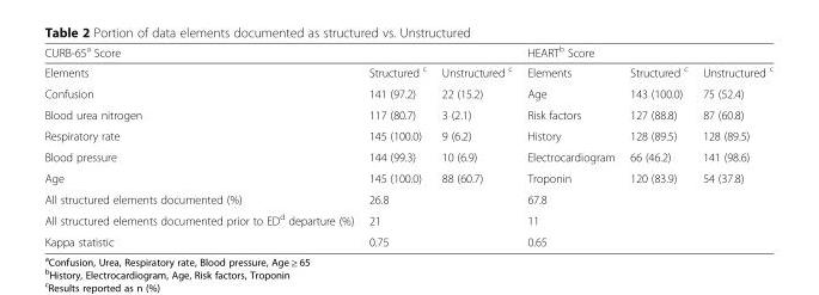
<table><thead><tr><td colspan="3">CURB-65<sup>a</sup> Score</td><td colspan="3">HEART<sup>b</sup> Score</td></tr><tr><td>Elements</td><td>Structured <sup>c</sup></td><td>Unstructured <sup>c</sup></td><td>Elements</td><td>Structured <sup>c</sup></td><td>Unstructured <sup>c</sup></td></tr></thead><tbody><tr><td>Confusion</td><td>141 (97.2)</td><td>22 (15.2)</td><td>Age</td><td>143 (100.0)</td><td>75 (52.4)</td></tr><tr><td>Blood urea nitrogen</td><td>117 (80.7)</td><td>3 (2.1)</td><td>Risk factors</td><td>127 (88.8)</td><td>87 (60.8)</td></tr><tr><td>Respiratory rate</td><td>145 (100.0)</td><td>9 (6.2)</td><td>History</td><td>128 (89.5)</td><td>128 (89.5)</td></tr><tr><td>Blood pressure</td><td>144 (99.3)</td><td>10 (6.9)</td><td>Electrocardiogram</td><td>66 (46.2)</td><td>141 (98.6)</td></tr><tr><td>Age</td><td>145 (100.0)</td><td>88 (60.7)</td><td>Troponin</td><td>120 (83.9)</td><td>54 (37.8)</td></tr><tr><td>All structured elements documented (%)</td><td colspan="2">26.8</td><td colspan="3">67.8</td></tr><tr><td>All structured elements documented prior to ED<sup>d</sup> departure (%)</td><td colspan="2">21</td><td colspan="3">11</td></tr><tr><td>Kappa statistic</td><td colspan="2">0.75</td><td colspan="3">0.65</td></tr></tbody></table>